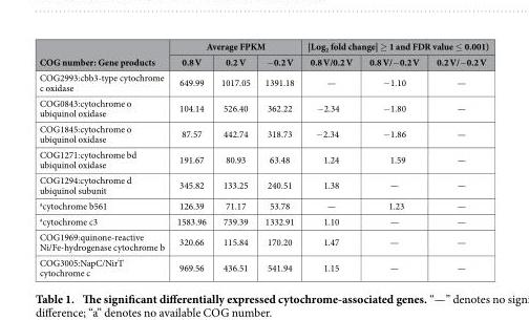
<table><thead><tr><td rowspan="2">COG number: Gene products</td><td colspan="3">Average FPKM</td><td colspan="3">|Log<sub>2</sub> fold change| ≥ 1 and FDR value ≤ 0.001)</td></tr><tr><td>0.8 V</td><td>0.2 V</td><td>− 0.2 V</td><td>0.8 V/0.2 V</td><td>0.8 V/− 0.2 V</td><td>0.2 V/− 0.2 V</td></tr></thead><tbody><tr><td>COG2993:cbb3-type cytochrome c oxidase</td><td>649.99</td><td>1017.05</td><td>1391.18</td><td>—</td><td>− 1.10</td><td>—</td></tr><tr><td>COG0843:cytochrome o ubiquinol oxidase</td><td>104.14</td><td>526.40</td><td>362.22</td><td>− 2.34</td><td>− 1.80</td><td>—</td></tr><tr><td>COG1845:cytochrome o ubiquinol oxidase</td><td>87.57</td><td>442.74</td><td>318.73</td><td>− 2.34</td><td>− 1.86</td><td>—</td></tr><tr><td>COG1271:cytochrome bd ubiquinol oxidase</td><td>191.67</td><td>80.93</td><td>63.48</td><td>1.24</td><td>1.59</td><td>—</td></tr><tr><td>COG1294:cytochrome d ubiquinol subunit</td><td>345.82</td><td>133.25</td><td>240.51</td><td>1.38</td><td>—</td><td>—</td></tr><tr><td><sup>a</sup>cytochrome b561</td><td>126.39</td><td>71.17</td><td>53.78</td><td>—</td><td>1.23</td><td>—</td></tr><tr><td><sup>a</sup>cytochrome c3</td><td>1583.96</td><td>739.39</td><td>1332.91</td><td>1.10</td><td>—</td><td>—</td></tr><tr><td>COG1969:quinone-reactive Ni/Fe-hydrogenase cytochrome b</td><td>320.66</td><td>115.84</td><td>170.20</td><td>1.47</td><td>—</td><td>—</td></tr><tr><td>COG3005:NapC/NirT cytochrome c</td><td>969.56</td><td>436.51</td><td>541.94</td><td>1.15</td><td>—</td><td>—</td></tr></tbody></table>